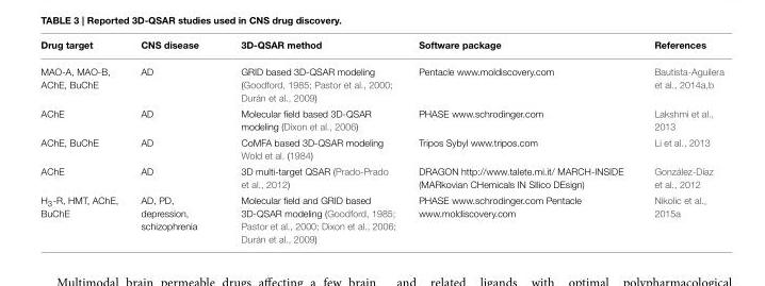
<table><thead><tr><td>Drug target</td><td>CNS disease</td><td>3D-QSAR method</td><td>Software package</td><td>References</td></tr></thead><tbody><tr><td>MAO-A, MAO-B, AChE, BuChE</td><td>AD</td><td>GRID based 3D-QSAR modeling (Goodford, 1985; Pastor et al., 2000; Durán et al., 2009)</td><td>Pentacle www.moldiscovery.com</td><td>Bautista-Aguilera et al., 2014a,b</td></tr><tr><td>AChE</td><td>AD</td><td>Molecular field based 3D-QSAR modeling (Dixon et al., 2006)</td><td>PHASE www.schrodinger.com</td><td>Lakshmi et al., 2013</td></tr><tr><td>AChE, BuChE</td><td>AD</td><td>CoMFA based 3D-QSAR modeling Wold et al. (1984)</td><td>Tripos Sybyl www.tripos.com</td><td>Li et al., 2013</td></tr><tr><td>AChE</td><td>AD</td><td>3D multi-target QSAR (Prado-Prado et al., 2012)</td><td>DRAGON http://www.talete.mi.it/ MARCH-INSIDE (MARkovian CHemicals IN SIlico DEsign)</td><td>González-Díaz et al., 2012</td></tr><tr><td>H<sub>3</sub>-R, HMT, AChE, BuChE</td><td>AD, PD, depression, schizophrenia</td><td>Molecular field and GRID based 3D-QSAR modeling (Goodford, 1985; Pastor et al., 2000; Dixon et al., 2006; Durán et al., 2009)</td><td>PHASE www.schrodinger.com Pentacle www.moldiscovery.com</td><td>Nikolic et al., 2015a</td></tr></tbody></table>